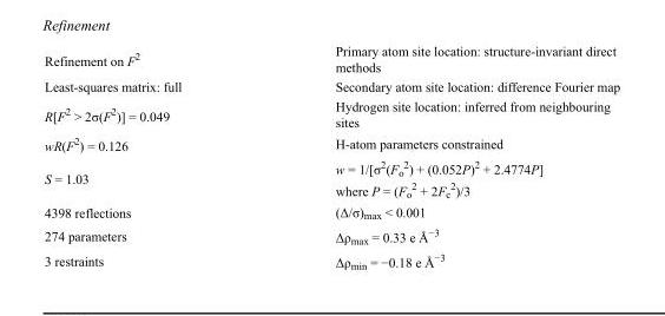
<table><tbody><tr><td>Refinement on F<sup>2</sup></td><td>Primary atom site location: structure-invariant direct methods</td></tr><tr><td>Least-squares matrix: full</td><td>Secondary atom site location: difference Fourier map</td></tr><tr><td>R[F<sup>2</sup> &gt; 2σ(F<sup>2</sup>)] = 0.049</td><td>Hydrogen site location: inferred from neighbouring sites</td></tr><tr><td>wR(F<sup>2</sup>) = 0.126</td><td>H-atom parameters constrained</td></tr><tr><td>S = 1.03</td><td>w = 1/[σ<sup>2</sup>(F<sub>o</sub> <sup>2</sup>) + (0.052P)<sup>2</sup> + 2.4774P] where P = (F<sub>o</sub> <sup>2</sup> + 2F<sub>c</sub> <sup>2</sup>)/3</td></tr><tr><td>4398 reflections</td><td>(Δ/σ)<sub>max</sub> &lt; 0.001</td></tr><tr><td>274 parameters</td><td>Δρ<sub>max</sub> = 0.33 e Å<sup>−3</sup></td></tr><tr><td>3 restraints</td><td>Δρ<sub>min</sub> = −0.18 e Å<sup>−3</sup></td></tr></tbody></table>